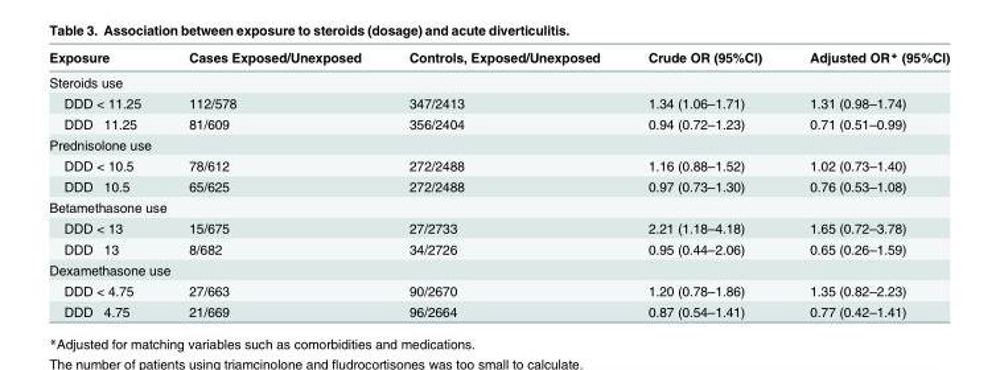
<table><thead><tr><td>Exposure</td><td>Cases Exposed/Unexposed</td><td>Controls, Exposed/Unexposed</td><td>Crude OR (95%CI)</td><td>Adjusted OR* (95%CI)</td></tr></thead><tbody><tr><td colspan="5">Steroids use</td></tr><tr><td>DDD &lt; 11.25</td><td>112/578</td><td>347/2413</td><td>1.34 (1.06–1.71)</td><td>1.31 (0.98–1.74)</td></tr><tr><td>DDD ≧ 11.25</td><td>81/609</td><td>356/2404</td><td>0.94 (0.72–1.23)</td><td>0.71 (0.51–0.99)</td></tr><tr><td colspan="5">Prednisolone use</td></tr><tr><td>DDD &lt; 10.5</td><td>78/612</td><td>272/2488</td><td>1.16 (0.88–1.52)</td><td>1.02 (0.73–1.40)</td></tr><tr><td>DDD ≧ 10.5</td><td>65/625</td><td>272/2488</td><td>0.97 (0.73–1.30)</td><td>0.76 (0.53–1.08)</td></tr><tr><td colspan="5">Betamethasone use</td></tr><tr><td>DDD &lt; 13</td><td>15/675</td><td>27/2733</td><td>2.21 (1.18–4.18)</td><td>1.65 (0.72–3.78)</td></tr><tr><td>DDD ≧ 13</td><td>8/682</td><td>34/2726</td><td>0.95 (0.44–2.06)</td><td>0.65 (0.26–1.59)</td></tr><tr><td colspan="5">Dexamethasone use</td></tr><tr><td>DDD &lt; 4.75</td><td>27/663</td><td>90/2670</td><td>1.20 (0.78–1.86)</td><td>1.35 (0.82–2.23)</td></tr><tr><td>DDD ≧ 4.75</td><td>21/669</td><td>96/2664</td><td>0.87 (0.54–1.41)</td><td>0.77 (0.42–1.41)</td></tr></tbody></table>